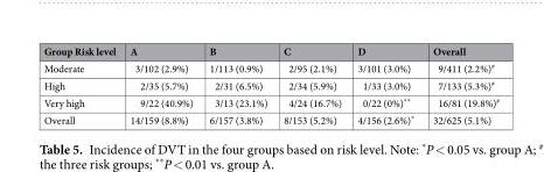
<table><thead><tr><td>Group Risk level</td><td>A</td><td>B</td><td>C</td><td>D</td><td>Overall</td></tr></thead><tbody><tr><td>Moderate</td><td>3/102 (2.9%)</td><td>1/113 (0.9%)</td><td>2/95 (2.1%)</td><td>3/101 (3.0%)</td><td>9/411 (2.2%)<sup>#</sup></td></tr><tr><td>High</td><td>2/35 (5.7%)</td><td>2/31 (6.5%)</td><td>2/34 (5.9%)</td><td>1/33 (3.0%)</td><td>7/133 (5.3%)<sup>#</sup></td></tr><tr><td>Very high</td><td>9/22 (40.9%)</td><td>3/13 (23.1%)</td><td>4/24 (16.7%)</td><td>0/22 (0%)**</td><td>16/81 (19.8%)<sup>#</sup></td></tr><tr><td>Overall</td><td>14/159 (8.8%)</td><td>6/157 (3.8%)</td><td>8/153 (5.2%)</td><td>4/156 (2.6%)*</td><td>32/625 (5.1%)</td></tr></tbody></table>